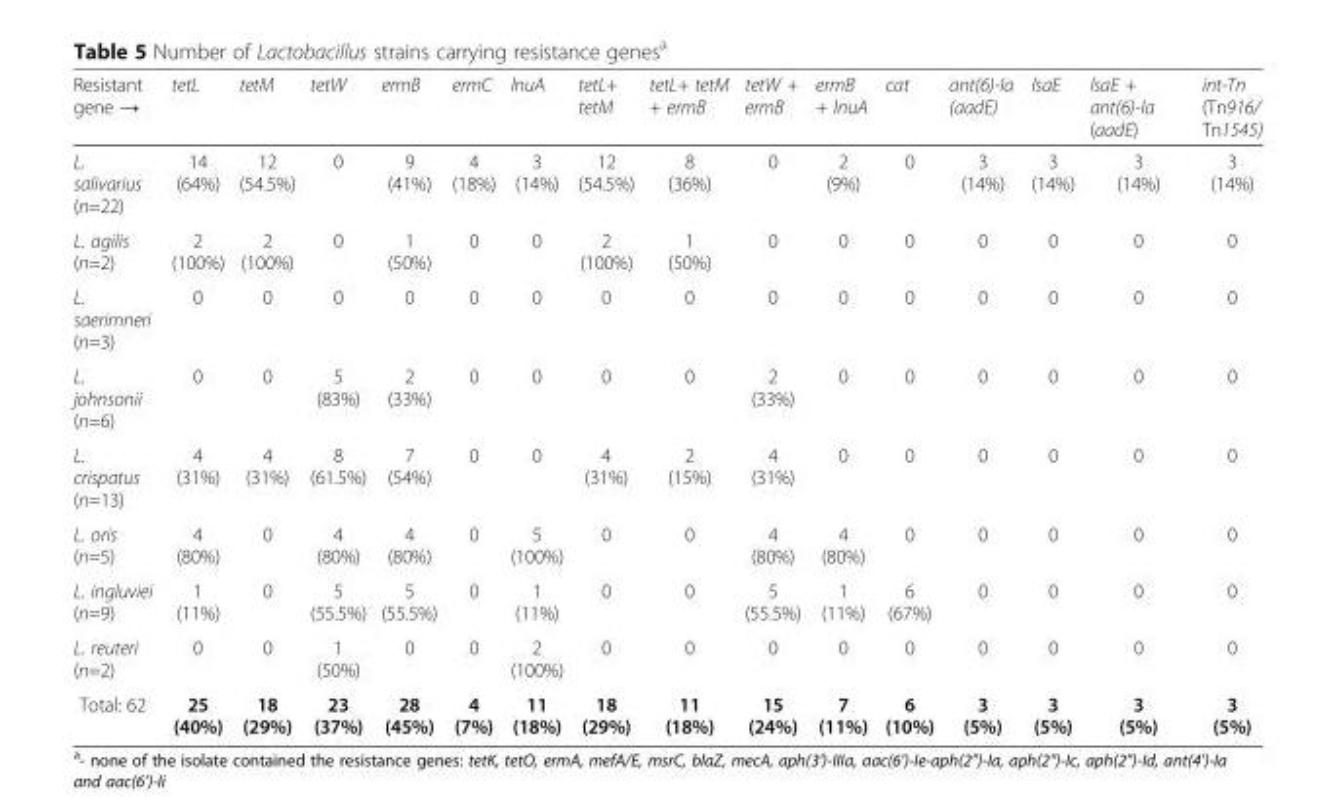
<table><thead><tr><td>Resistant gene →</td><td>tetL</td><td>tetM</td><td>tetW</td><td>ermB</td><td>ermC</td><td>lnuA</td><td>tetL+ tetM</td><td>tetL+ tetM + ermB</td><td>tetW + ermB</td><td>ermB + lnuA</td><td>cat</td><td>ant(6)-Ia (aadE)</td><td>lsaE</td><td>lsaE + ant(6)-Ia (aadE)</td><td>int-Tn (Tn916/ Tn1545)</td></tr></thead><tbody><tr><td>L. salivarius (n=22)</td><td>14 (64%)</td><td>12 (54.5%)</td><td>0</td><td>9 (41%)</td><td>4 (18%)</td><td>3 (14%)</td><td>12 (54.5%)</td><td>8 (36%)</td><td>0</td><td>2 (9%)</td><td>0</td><td>3 (14%)</td><td>3 (14%)</td><td>3 (14%)</td><td>3 (14%)</td></tr><tr><td>L. agilis (n=2)</td><td>2 (100%)</td><td>2 (100%)</td><td>0</td><td>1 (50%)</td><td>0</td><td>0</td><td>2 (100%)</td><td>1 (50%)</td><td>0</td><td>0</td><td>0</td><td>0</td><td>0</td><td>0</td><td>0</td></tr><tr><td>L. saerimneri (n=3)</td><td>0</td><td>0</td><td>0</td><td>0</td><td>0</td><td>0</td><td>0</td><td>0</td><td>0</td><td>0</td><td>0</td><td>0</td><td>0</td><td>0</td><td>0</td></tr><tr><td>L. johnsonii (n=6)</td><td>0</td><td>0</td><td>5 (83%)</td><td>2 (33%)</td><td>0</td><td>0</td><td>0</td><td>0</td><td>2 (33%)</td><td>0</td><td>0</td><td>0</td><td>0</td><td>0</td><td>0</td></tr><tr><td>L. crispatus (n=13)</td><td>4 (31%)</td><td>4 (31%)</td><td>8 (61.5%)</td><td>7 (54%)</td><td>0</td><td>0</td><td>4 (31%)</td><td>2 (15%)</td><td>4 (31%)</td><td>0</td><td>0</td><td>0</td><td>0</td><td>0</td><td>0</td></tr><tr><td>L. oris (n=5)</td><td>4 (80%)</td><td>0</td><td>4 (80%)</td><td>4 (80%)</td><td>0</td><td>5 (100%)</td><td>0</td><td>0</td><td>4 (80%)</td><td>4 (80%)</td><td>0</td><td>0</td><td>0</td><td>0</td><td>0</td></tr><tr><td>L. ingluviei (n=9)</td><td>1 (11%)</td><td>0</td><td>5 (55.5%)</td><td>5 (55.5%)</td><td>0</td><td>1 (11%)</td><td>0</td><td>0</td><td>5 (55.5%)</td><td>1 (11%)</td><td>6 (67%)</td><td>0</td><td>0</td><td>0</td><td>0</td></tr><tr><td>L. reuteri (n=2)</td><td>0</td><td>0</td><td>1 (50%)</td><td>0</td><td>0</td><td>2 (100%)</td><td>0</td><td>0</td><td>0</td><td>0</td><td>0</td><td>0</td><td>0</td><td>0</td><td>0</td></tr><tr><td>Total: 62</td><td>25 (40%)</td><td>18 (29%)</td><td>23 (37%)</td><td>28 (45%)</td><td>4 (7%)</td><td>11 (18%)</td><td>18 (29%)</td><td>11 (18%)</td><td>15 (24%)</td><td>7 (11%)</td><td>6 (10%)</td><td>3 (5%)</td><td>3 (5%)</td><td>3 (5%)</td><td>3 (5%)</td></tr></tbody></table>